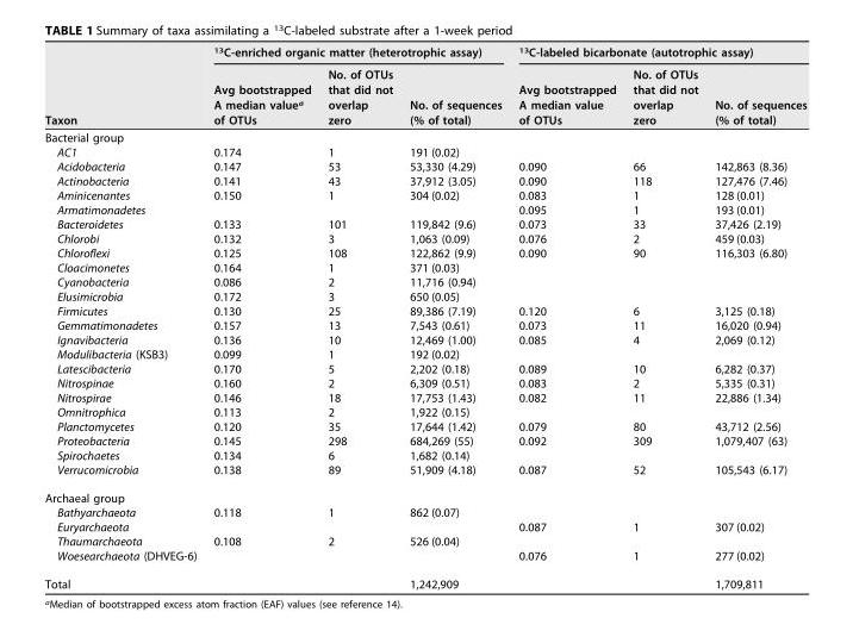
<table><thead><tr><td rowspan="2">Taxon</td><td colspan="3"><sup>13</sup>C-enriched organic matter (heterotrophic assay)</td><td colspan="3"><sup>13</sup>C-labeled bicarbonate (autotrophic assay)</td></tr><tr><td>Avg bootstrapped A median value<sup>a</sup> of OTUs</td><td>No. of OTUs that did not overlap zero</td><td>No. of sequences (% of total)</td><td>Avg bootstrapped A median value of OTUs</td><td>No. of OTUs that did not overlap zero</td><td>No. of sequences (% of total)</td></tr></thead><tbody><tr><td colspan="7">Bacterial group</td></tr><tr><td>AC1</td><td>0.174</td><td>1</td><td>191 (0.02)</td><td></td><td></td><td></td></tr><tr><td>Acidobacteria</td><td>0.147</td><td>53</td><td>53,330 (4.29)</td><td>0.090</td><td>66</td><td>142,863 (8.36)</td></tr><tr><td>Actinobacteria</td><td>0.141</td><td>43</td><td>37,912 (3.05)</td><td>0.090</td><td>118</td><td>127,476 (7.46)</td></tr><tr><td>Aminicenantes</td><td>0.150</td><td>1</td><td>304 (0.02)</td><td>0.083</td><td>1</td><td>128 (0.01)</td></tr><tr><td>Armatimonadetes</td><td></td><td></td><td></td><td>0.095</td><td>1</td><td>193 (0.01)</td></tr><tr><td>Bacteroidetes</td><td>0.133</td><td>101</td><td>119,842 (9.6)</td><td>0.073</td><td>33</td><td>37,426 (2.19)</td></tr><tr><td>Chlorobi</td><td>0.132</td><td>3</td><td>1,063 (0.09)</td><td>0.076</td><td>2</td><td>459 (0.03)</td></tr><tr><td>Chloroflexi</td><td>0.125</td><td>108</td><td>122,862 (9.9)</td><td>0.090</td><td>90</td><td>116,303 (6.80)</td></tr><tr><td>Cloacimonetes</td><td>0.164</td><td>1</td><td>371 (0.03)</td><td></td><td></td><td></td></tr><tr><td>Cyanobacteria</td><td>0.086</td><td>2</td><td>11,716 (0.94)</td><td></td><td></td><td></td></tr><tr><td>Elusimicrobia</td><td>0.172</td><td>3</td><td>650 (0.05)</td><td></td><td></td><td></td></tr><tr><td>Firmicutes</td><td>0.130</td><td>25</td><td>89,386 (7.19)</td><td>0.120</td><td>6</td><td>3,125 (0.18)</td></tr><tr><td>Gemmatimonadetes</td><td>0.157</td><td>13</td><td>7,543 (0.61)</td><td>0.073</td><td>11</td><td>16,020 (0.94)</td></tr><tr><td>Ignavibacteria</td><td>0.136</td><td>10</td><td>12,469 (1.00)</td><td>0.085</td><td>4</td><td>2,069 (0.12)</td></tr><tr><td>Modulibacteria (KSB3)</td><td>0.099</td><td>1</td><td>192 (0.02)</td><td></td><td></td><td></td></tr><tr><td>Latescibacteria</td><td>0.170</td><td>5</td><td>2,202 (0.18)</td><td>0.089</td><td>10</td><td>6,282 (0.37)</td></tr><tr><td>Nitrospinae</td><td>0.160</td><td>2</td><td>6,309 (0.51)</td><td>0.083</td><td>2</td><td>5,335 (0.31)</td></tr><tr><td>Nitrospirae</td><td>0.146</td><td>18</td><td>17,753 (1.43)</td><td>0.082</td><td>11</td><td>22,886 (1.34)</td></tr><tr><td>Omnitrophica</td><td>0.113</td><td>2</td><td>1,922 (0.15)</td><td></td><td></td><td></td></tr><tr><td>Planctomycetes</td><td>0.120</td><td>35</td><td>17,644 (1.42)</td><td>0.079</td><td>80</td><td>43,712 (2.56)</td></tr><tr><td>Proteobacteria</td><td>0.145</td><td>298</td><td>684,269 (55)</td><td>0.092</td><td>309</td><td>1,079,407 (63)</td></tr><tr><td>Spirochaetes</td><td>0.134</td><td>6</td><td>1,682 (0.14)</td><td></td><td></td><td></td></tr><tr><td>Verrucomicrobia</td><td>0.138</td><td>89</td><td>51,909 (4.18)</td><td>0.087</td><td>52</td><td>105,543 (6.17)</td></tr><tr><td colspan="7">Archaeal group</td></tr><tr><td>Bathyarchaeota</td><td>0.118</td><td>1</td><td>862 (0.07)</td><td></td><td></td><td></td></tr><tr><td>Euryarchaeota</td><td></td><td></td><td></td><td>0.087</td><td>1</td><td>307 (0.02)</td></tr><tr><td>Thaumarchaeota</td><td>0.108</td><td>2</td><td>526 (0.04)</td><td></td><td></td><td></td></tr><tr><td>Woesearchaeota (DHVEG-6)</td><td></td><td></td><td></td><td>0.076</td><td>1</td><td>277 (0.02)</td></tr><tr><td>Total</td><td></td><td></td><td>1,242,909</td><td></td><td></td><td>1,709,811</td></tr></tbody></table>